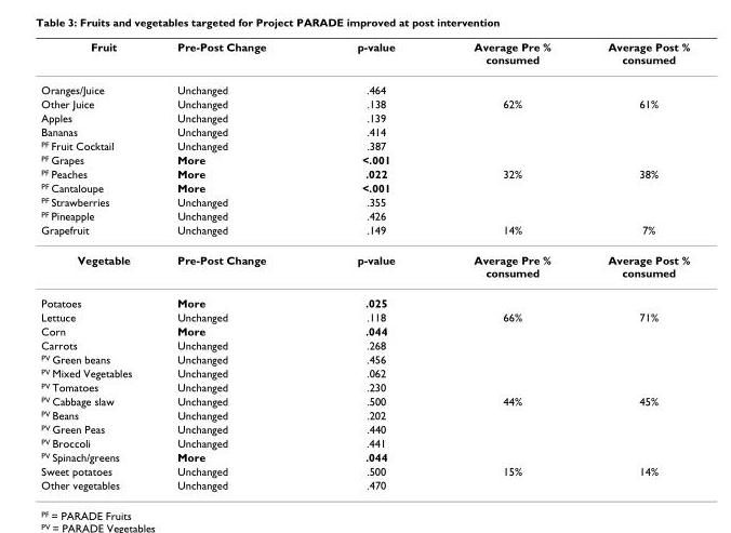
<table><thead><tr><td>Fruit</td><td>Pre-Post Change</td><td>p-value</td><td>Average Pre % consumed</td><td>Average Post % consumed</td></tr></thead><tbody><tr><td>Oranges/Juice</td><td>Unchanged</td><td>.464</td><td></td><td></td></tr><tr><td>Other Juice</td><td>Unchanged</td><td>.138</td><td>62%</td><td>61%</td></tr><tr><td>Apples</td><td>Unchanged</td><td>.139</td><td></td><td></td></tr><tr><td>Bananas</td><td>Unchanged</td><td>.414</td><td></td><td></td></tr><tr><td><sup>PF</sup> Fruit Cocktail</td><td>Unchanged</td><td>.387</td><td></td><td></td></tr><tr><td><sup>PF</sup> Grapes</td><td>More</td><td>&lt;.001</td><td></td><td></td></tr><tr><td><sup>PF</sup> Peaches</td><td>More</td><td>.022</td><td>32%</td><td>38%</td></tr><tr><td><sup>PF</sup> Cantaloupe</td><td>More</td><td>&lt;.001</td><td></td><td></td></tr><tr><td><sup>PF</sup> Strawberries</td><td>Unchanged</td><td>.355</td><td></td><td></td></tr><tr><td><sup>PF</sup> Pineapple</td><td>Unchanged</td><td>.426</td><td></td><td></td></tr><tr><td>Grapefruit</td><td>Unchanged</td><td>.149</td><td>14%</td><td>7%</td></tr><tr><td>Vegetable</td><td>Pre-Post Change</td><td>p-value</td><td>Average Pre % consumed</td><td>Average Post % consumed</td></tr><tr><td>Potatoes</td><td>More</td><td>.025</td><td></td><td></td></tr><tr><td>Lettuce</td><td>Unchanged</td><td>.118</td><td>66%</td><td>71%</td></tr><tr><td>Corn</td><td>More</td><td>.044</td><td></td><td></td></tr><tr><td>Carrots</td><td>Unchanged</td><td>.268</td><td></td><td></td></tr><tr><td><sup>PV</sup> Green beans</td><td>Unchanged</td><td>.456</td><td></td><td></td></tr><tr><td><sup>PV</sup> Mixed Vegetables</td><td>Unchanged</td><td>.062</td><td></td><td></td></tr><tr><td><sup>PV</sup> Tomatoes</td><td>Unchanged</td><td>.230</td><td></td><td></td></tr><tr><td><sup>PV</sup> Cabbage slaw</td><td>Unchanged</td><td>.500</td><td>44%</td><td>45%</td></tr><tr><td><sup>PV</sup> Beans</td><td>Unchanged</td><td>.202</td><td></td><td></td></tr><tr><td><sup>PV</sup> Green Peas</td><td>Unchanged</td><td>.440</td><td></td><td></td></tr><tr><td><sup>PV</sup> Broccoli</td><td>Unchanged</td><td>.441</td><td></td><td></td></tr><tr><td><sup>PV</sup> Spinach/greens</td><td>More</td><td>.044</td><td></td><td></td></tr><tr><td>Sweet potatoes</td><td>Unchanged</td><td>.500</td><td>15%</td><td>14%</td></tr><tr><td>Other vegetables</td><td>Unchanged</td><td>.470</td><td></td><td></td></tr></tbody></table>